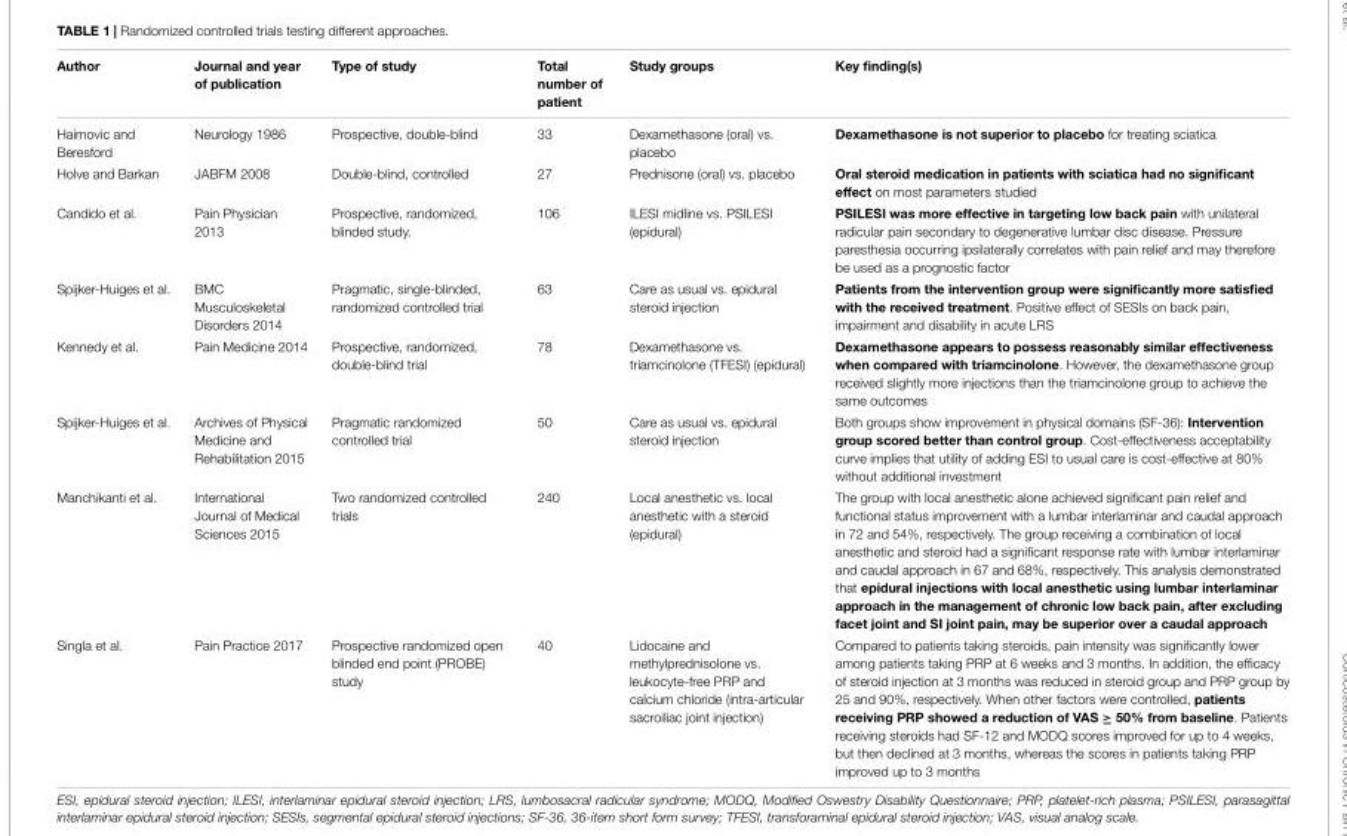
<table><thead><tr><td>Author</td><td>Journal and year of publication</td><td>Type of study</td><td>Total number of patient</td><td>Study groups</td><td>Key finding(s)</td></tr></thead><tbody><tr><td>Haimovic and Beresford</td><td>Neurology 1986</td><td>Prospective, double-blind</td><td>33</td><td>Dexamethasone (oral) vs. placebo</td><td>Dexamethasone is not superior to placebo for treating sciatica</td></tr><tr><td>Holve and Barkan</td><td>JABFM 2008</td><td>Double-blind, controlled</td><td>27</td><td>Prednisone (oral) vs. placebo</td><td>Oral steroid medication in patients with sciatica had no significant effect on most parameters studied</td></tr><tr><td>Candido et al.</td><td>Pain Physician 2013</td><td>Prospective, randomized, blinded study.</td><td>106</td><td>ILESI midline vs. PSILESI (epidural)</td><td>PSILESI was more effective in targeting low back pain with unilateral radicular pain secondary to degenerative lumbar disc disease. Pressure paresthesia occurring ipsilaterally correlates with pain relief and may therefore be used as a prognostic factor</td></tr><tr><td>Spijker-Huiges et al.</td><td>BMC Musculoskeletal Disorders 2014</td><td>Pragmatic, single-blinded, randomized controlled trial</td><td>63</td><td>Care as usual vs. epidural steroid injection</td><td>Patients from the intervention group were significantly more satisfied with the received treatment. Positive effect of SESIs on back pain, impairment and disability in acute LRS</td></tr><tr><td>Kennedy et al.</td><td>Pain Medicine 2014</td><td>Prospective, randomized, double-blind trial</td><td>78</td><td>Dexamethasone vs. triamcinolone (TFESI) (epidural)</td><td>Dexamethasone appears to possess reasonably similar effectiveness when compared with triamcinolone. However, the dexamethasone group received slightly more injections than the triamcinolone group to achieve the same outcomes</td></tr><tr><td>Spijker-Huiges et al.</td><td>Archives of Physical Medicine and Rehabilitation 2015</td><td>Pragmatic randomized controlled trial</td><td>50</td><td>Care as usual vs. epidural steroid injection</td><td>Both groups show improvement in physical domains (SF-36): Intervention group scored better than control group. Cost-effectiveness acceptability curve implies that utility of adding ESI to usual care is cost-effective at 80% without additional investment</td></tr><tr><td>Manchikanti et al.</td><td>International Journal of Medical Sciences 2015</td><td>Two randomized controlled trials</td><td>240</td><td>Local anesthetic vs. local anesthetic with a steroid (epidural)</td><td>The group with local anesthetic alone achieved significant pain relief and functional status improvement with a lumbar interlaminar and caudal approach in 72 and 54%, respectively. The group receiving a combination of local anesthetic and steroid had a significant response rate with lumbar interlaminar and caudal approach in 67 and 68%, respectively. This analysis demonstrated that epidural injections with local anesthetic using lumbar interlaminar approach in the management of chronic low back pain, after excluding facet joint and SI joint pain, may be superior over a caudal approach</td></tr><tr><td>Singla et al.</td><td>Pain Practice 2017</td><td>Prospective randomized open blinded end point (PROBE) study</td><td>40</td><td>Lidocaine and methylprednisolone vs. leukocyte-free PRP and calcium chloride (intra-articular sacroiliac joint injection)</td><td>Compared to patients taking steroids, pain intensity was significantly lower among patients taking PRP at 6 weeks and 3 months. In addition, the efficacy of steroid injection at 3 months was reduced in steroid group and PRP group by 25 and 90%, respectively. When other factors were controlled, patients receiving PRP showed a reduction of VAS ≥ 50% from baseline. Patients receiving steroids had SF-12 and MODQ scores improved for up to 4 weeks, but then declined at 3 months, whereas the scores in patients taking PRP improved up to 3 months</td></tr></tbody></table>